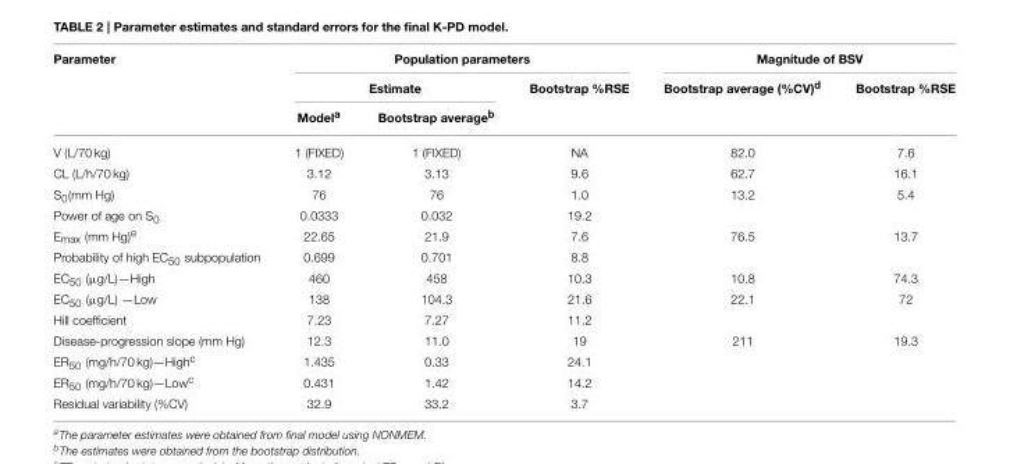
<table><thead><tr><td rowspan="3">Parameter</td><td colspan="3">Population parameters</td><td colspan="2">Magnitude of BSV</td></tr><tr><td colspan="2">Estimate</td><td rowspan="2">Bootstrap %RSE</td><td rowspan="2">Bootstrap average (%CV)<sup>d</sup></td><td rowspan="2">Bootstrap %RSE</td></tr><tr><td>Model<sup>a</sup></td><td>Bootstrap average<sup>b</sup></td></tr></thead><tbody><tr><td>V (L/70 kg)</td><td>1 (FIXED)</td><td>1 (FIXED)</td><td>NA</td><td>82.0</td><td>7.6</td></tr><tr><td>CL (L/h/70 kg)</td><td>3.12</td><td>3.13</td><td>9.6</td><td>62.7</td><td>16.1</td></tr><tr><td>S<sub>0</sub>(mm Hg)</td><td>76</td><td>76</td><td>1.0</td><td>13.2</td><td>5.4</td></tr><tr><td>Power of age on S<sub>0</sub></td><td>0.0333</td><td>0.032</td><td>19.2</td><td></td><td></td></tr><tr><td>E<sub>max</sub> (mm Hg)<sup>e</sup></td><td>22.65</td><td>21.9</td><td>7.6</td><td>76.5</td><td>13.7</td></tr><tr><td>Probability of high EC<sub>50</sub> subpopulation</td><td>0.699</td><td>0.701</td><td>8.8</td><td></td><td></td></tr><tr><td>EC<sub>50</sub> (µg/L)—High</td><td>460</td><td>458</td><td>10.3</td><td>10.8</td><td>74.3</td></tr><tr><td>EC<sub>50</sub> (µg/L) —Low</td><td>138</td><td>104.3</td><td>21.6</td><td>22.1</td><td>72</td></tr><tr><td>Hill coefficient</td><td>7.23</td><td>7.27</td><td>11.2</td><td></td><td></td></tr><tr><td>Disease-progression slope (mm Hg)</td><td>12.3</td><td>11.0</td><td>19</td><td>211</td><td>19.3</td></tr><tr><td>ER<sub>50</sub> (mg/h/70 kg)—High<sup>c</sup></td><td>1.435</td><td>0.33</td><td>24.1</td><td></td><td></td></tr><tr><td>ER<sub>50</sub> (mg/h/70 kg)—Low<sup>c</sup></td><td>0.431</td><td>1.42</td><td>14.2</td><td></td><td></td></tr><tr><td>Residual variability (%CV)</td><td>32.9</td><td>33.2</td><td>3.7</td><td></td><td></td></tr></tbody></table>